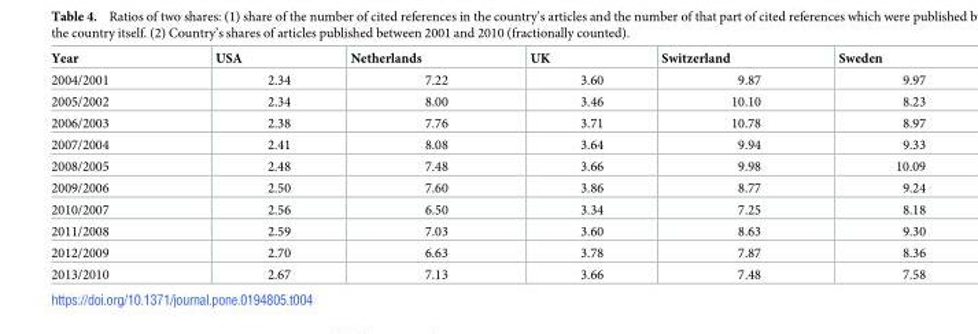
<table><thead><tr><td>Year</td><td>USA</td><td>Netherlands</td><td>UK</td><td>Switzerland</td><td>Sweden</td></tr></thead><tbody><tr><td>2004/2001</td><td>2.34</td><td>7.22</td><td>3.60</td><td>9.87</td><td>9.97</td></tr><tr><td>2005/2002</td><td>2.34</td><td>8.00</td><td>3.46</td><td>10.10</td><td>8.23</td></tr><tr><td>2006/2003</td><td>2.38</td><td>7.76</td><td>3.71</td><td>10.78</td><td>8.97</td></tr><tr><td>2007/2004</td><td>2.41</td><td>8.08</td><td>3.64</td><td>9.94</td><td>9.33</td></tr><tr><td>2008/2005</td><td>2.48</td><td>7.48</td><td>3.66</td><td>9.98</td><td>10.09</td></tr><tr><td>2009/2006</td><td>2.50</td><td>7.60</td><td>3.86</td><td>8.77</td><td>9.24</td></tr><tr><td>2010/2007</td><td>2.56</td><td>6.50</td><td>3.34</td><td>7.25</td><td>8.18</td></tr><tr><td>2011/2008</td><td>2.59</td><td>7.03</td><td>3.60</td><td>8.63</td><td>9.30</td></tr><tr><td>2012/2009</td><td>2.70</td><td>6.63</td><td>3.78</td><td>7.87</td><td>8.36</td></tr><tr><td>2013/2010</td><td>2.67</td><td>7.13</td><td>3.66</td><td>7.48</td><td>7.58</td></tr></tbody></table>